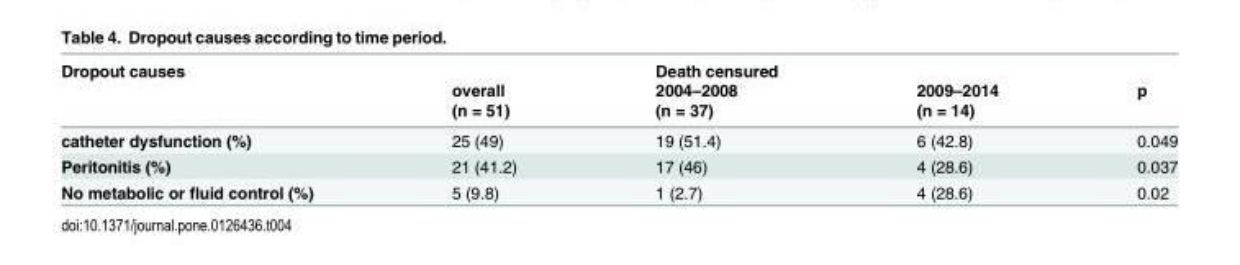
<table><thead><tr><td rowspan="3">Dropout causes</td><td rowspan="3">overall (n = 51)</td><td rowspan="3">Death censured 2004–2008 (n = 37)</td><td rowspan="3">2009–2014 (n = 14)</td><td rowspan="3">p</td></tr><tr></tr><tr></tr></thead><tbody><tr><td>catheter dysfunction (%)</td><td>25 (49)</td><td>19 (51.4)</td><td>6 (42.8)</td><td>0.049</td></tr><tr><td>Peritonitis (%)</td><td>21 (41.2)</td><td>17 (46)</td><td>4 (28.6)</td><td>0.037</td></tr><tr><td>No metabolic or fluid control (%)</td><td>5 (9.8)</td><td>1 (2.7)</td><td>4 (28.6)</td><td>0.02</td></tr></tbody></table>